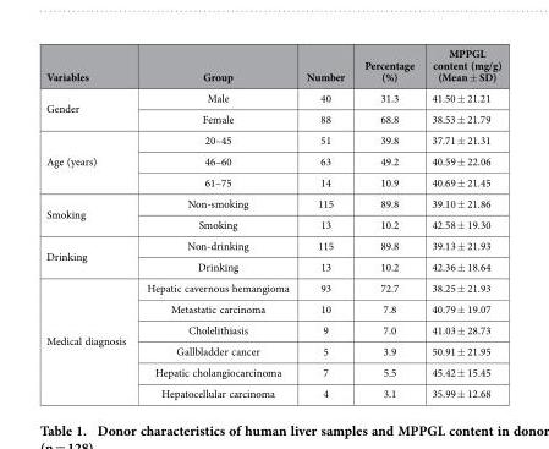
<table><thead><tr><td>Variables</td><td>Group</td><td>Number</td><td>Percentage (%)</td><td>MPPGL content (mg/g) (Mean ± SD)</td></tr></thead><tbody><tr><td rowspan="2">Gender</td><td>Male</td><td>40</td><td>31.3</td><td>41.50 ± 21.21</td></tr><tr><td>Female</td><td>88</td><td>68.8</td><td>38.53 ± 21.79</td></tr><tr><td rowspan="3">Age (years)</td><td>20–45</td><td>51</td><td>39.8</td><td>37.71 ± 21.31</td></tr><tr><td>46–60</td><td>63</td><td>49.2</td><td>40.59 ± 22.06</td></tr><tr><td>61–75</td><td>14</td><td>10.9</td><td>40.69 ± 21.45</td></tr><tr><td rowspan="2">Smoking</td><td>Non-smoking</td><td>115</td><td>89.8</td><td>39.10 ± 21.86</td></tr><tr><td>Smoking</td><td>13</td><td>10.2</td><td>42.58 ± 19.30</td></tr><tr><td rowspan="2">Drinking</td><td>Non-drinking</td><td>115</td><td>89.8</td><td>39.13 ± 21.93</td></tr><tr><td>Drinking</td><td>13</td><td>10.2</td><td>42.36 ± 18.64</td></tr><tr><td rowspan="6">Medical diagnosis</td><td>Hepatic cavernous hemangioma</td><td>93</td><td>72.7</td><td>38.25 ± 21.93</td></tr><tr><td>Metastatic carcinoma</td><td>10</td><td>7.8</td><td>40.79 ± 19.07</td></tr><tr><td>Cholelithiasis</td><td>9</td><td>7.0</td><td>41.03 ± 28.73</td></tr><tr><td>Gallbladder cancer</td><td>5</td><td>3.9</td><td>50.91 ± 21.95</td></tr><tr><td>Hepatic cholangiocarcinoma</td><td>7</td><td>5.5</td><td>45.42 ± 15.45</td></tr><tr><td>Hepatocellular carcinoma</td><td>4</td><td>3.1</td><td>35.99 ± 12.68</td></tr></tbody></table>